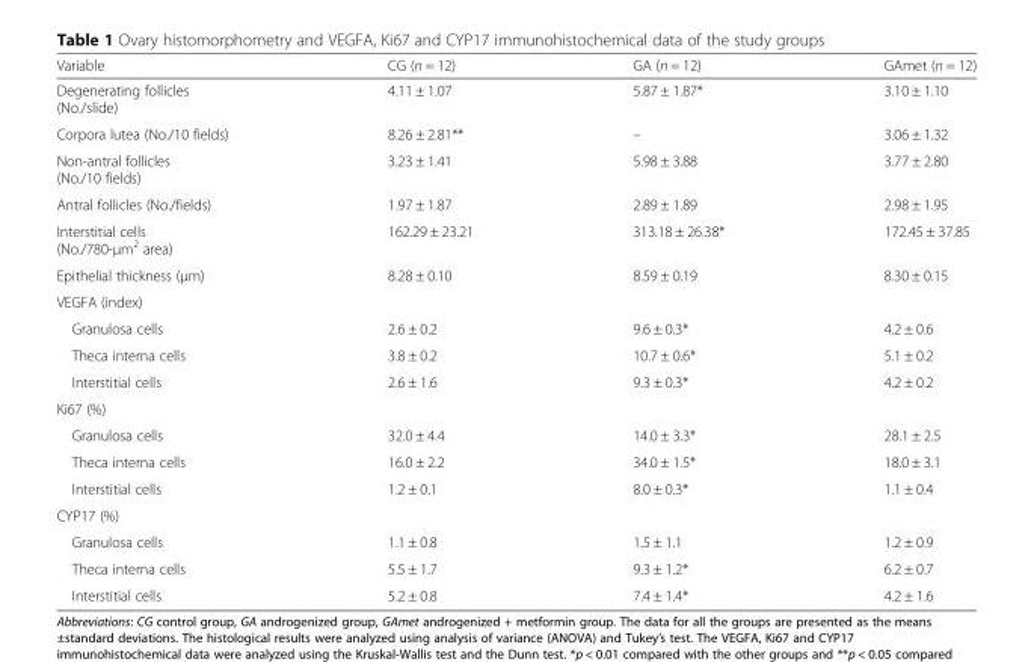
<table><thead><tr><td>Variable</td><td>CG (n = 12)</td><td>GA (n = 12)</td><td>GAmet (n = 12)</td></tr></thead><tbody><tr><td>Degenerating follicles (No./slide)</td><td>4.11 ± 1.07</td><td>5.87 ± 1.87*</td><td>3.10 ± 1.10</td></tr><tr><td>Corpora lutea (No./10 fields)</td><td>8.26 ± 2.81**</td><td>–</td><td>3.06 ± 1.32</td></tr><tr><td>Non-antral follicles (No./10 fields)</td><td>3.23 ± 1.41</td><td>5.98 ± 3.88</td><td>3.77 ± 2.80</td></tr><tr><td>Antral follicles (No./fields)</td><td>1.97 ± 1.87</td><td>2.89 ± 1.89</td><td>2.98 ± 1.95</td></tr><tr><td>Interstitial cells (No./780-μm<sup>2</sup> area)</td><td>162.29 ± 23.21</td><td>313.18 ± 26.38*</td><td>172.45 ± 37.85</td></tr><tr><td>Epithelial thickness (μm)</td><td>8.28 ± 0.10</td><td>8.59 ± 0.19</td><td>8.30 ± 0.15</td></tr><tr><td colspan="4">VEGFA (index)</td></tr><tr><td>Granulosa cells</td><td>2.6 ± 0.2</td><td>9.6 ± 0.3*</td><td>4.2 ± 0.6</td></tr><tr><td>Theca interna cells</td><td>3.8 ± 0.2</td><td>10.7 ± 0.6*</td><td>5.1 ± 0.2</td></tr><tr><td>Interstitial cells</td><td>2.6 ± 1.6</td><td>9.3 ± 0.3*</td><td>4.2 ± 0.2</td></tr><tr><td colspan="4">Ki67 (%)</td></tr><tr><td>Granulosa cells</td><td>32.0 ± 4.4</td><td>14.0 ± 3.3*</td><td>28.1 ± 2.5</td></tr><tr><td>Theca interna cells</td><td>16.0 ± 2.2</td><td>34.0 ± 1.5*</td><td>18.0 ± 3.1</td></tr><tr><td>Interstitial cells</td><td>1.2 ± 0.1</td><td>8.0 ± 0.3*</td><td>1.1 ± 0.4</td></tr><tr><td colspan="4">CYP17 (%)</td></tr><tr><td>Granulosa cells</td><td>1.1 ± 0.8</td><td>1.5 ± 1.1</td><td>1.2 ± 0.9</td></tr><tr><td>Theca interna cells</td><td>5.5 ± 1.7</td><td>9.3 ± 1.2*</td><td>6.2 ± 0.7</td></tr><tr><td>Interstitial cells</td><td>5.2 ± 0.8</td><td>7.4 ± 1.4*</td><td>4.2 ± 1.6</td></tr></tbody></table>